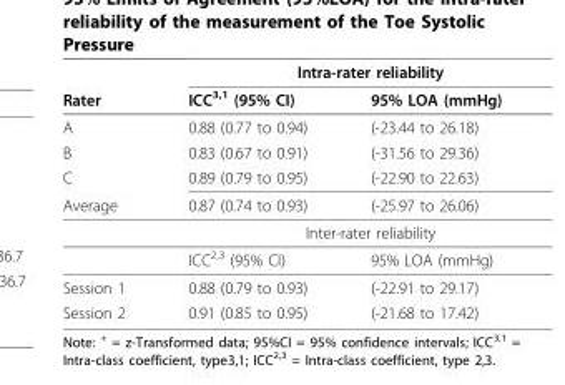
<table><thead><tr><td rowspan="2">Rater</td><td colspan="2">Intra-rater reliability</td></tr><tr><td>ICC<sup>3,1</sup> (95% CI)</td><td>95% LOA (mmHg)</td></tr></thead><tbody><tr><td>A</td><td>0.88 (0.77 to 0.94)</td><td>(-23.44 to 26.18)</td></tr><tr><td>B</td><td>0.83 (0.67 to 0.91)</td><td>(-31.56 to 29.36)</td></tr><tr><td>C</td><td>0.89 (0.79 to 0.95)</td><td>(-22.90 to 22.63)</td></tr><tr><td rowspan="3">Average</td><td>0.87 (0.74 to 0.93)</td><td>(-25.97 to 26.06)</td></tr><tr><td colspan="2">Inter-rater reliability</td></tr><tr><td>ICC<sup>2,3</sup> (95% CI)</td><td>95% LOA (mmHg)</td></tr><tr><td>Session 1</td><td>0.88 (0.79 to 0.93)</td><td>(-22.91 to 29.17)</td></tr><tr><td>Session 2</td><td>0.91 (0.85 to 0.95)</td><td>(-21.68 to 17.42)</td></tr></tbody></table>